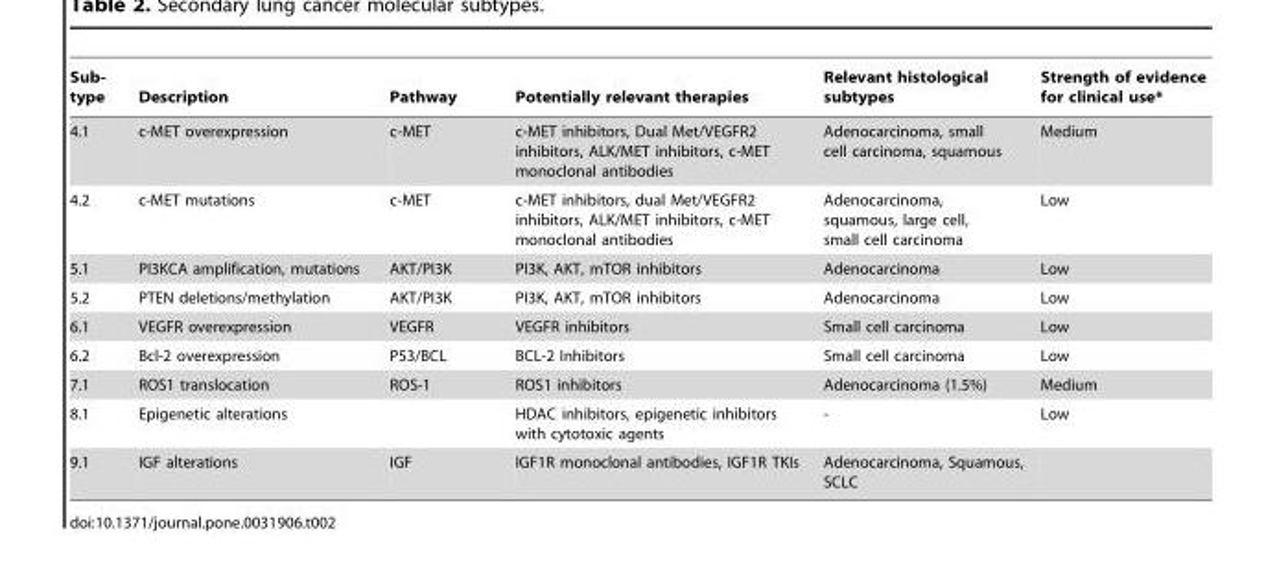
<table><thead><tr><td>Sub- type</td><td>Description</td><td>Pathway</td><td>Potentially relevant therapies</td><td>Relevant histological subtypes</td><td>Strength of evidence for clinical use*</td></tr></thead><tbody><tr><td>4.1</td><td>c-MET overexpression</td><td>c-MET</td><td>c-MET inhibitors, Dual Met/VEGFR2 inhibitors, ALK/MET inhibitors, c-MET monoclonal antibodies</td><td>Adenocarcinoma, small cell carcinoma, squamous</td><td>Medium</td></tr><tr><td>4.2</td><td>c-MET mutations</td><td>c-MET</td><td>c-MET inhibitors, dual Met/VEGFR2 inhibitors, ALK/MET inhibitors, c-MET monoclonal antibodies</td><td>Adenocarcinoma, squamous, large cell, small cell carcinoma</td><td>Low</td></tr><tr><td>5.1</td><td>PI3KCA amplification, mutations</td><td>AKT/PI3K</td><td>PI3K, AKT, mTOR inhibitors</td><td>Adenocarcinoma</td><td>Low</td></tr><tr><td>5.2</td><td>PTEN deletions/methylation</td><td>AKT/PI3K</td><td>PI3K, AKT, mTOR inhibitors</td><td>Adenocarcinoma</td><td>Low</td></tr><tr><td>6.1</td><td>VEGFR overexpression</td><td>VEGFR</td><td>VEGFR inhibitors</td><td>Small cell carcinoma</td><td>Low</td></tr><tr><td>6.2</td><td>Bcl-2 overexpression</td><td>P53/BCL</td><td>BCL-2 Inhibitors</td><td>Small cell carcinoma</td><td>Low</td></tr><tr><td>7.1</td><td>ROS1 translocation</td><td>ROS-1</td><td>ROS1 inhibitors</td><td>Adenocarcinoma (1.5%)</td><td>Medium</td></tr><tr><td>8.1</td><td>Epigenetic alterations</td><td></td><td>HDAC inhibitors, epigenetic inhibitors with cytotoxic agents</td><td>-</td><td>Low</td></tr><tr><td>9.1</td><td>IGF alterations</td><td>IGF</td><td>IGF1R monoclonal antibodies, IGF1R TKIs</td><td>Adenocarcinoma, Squamous, SCLC</td><td></td></tr></tbody></table>